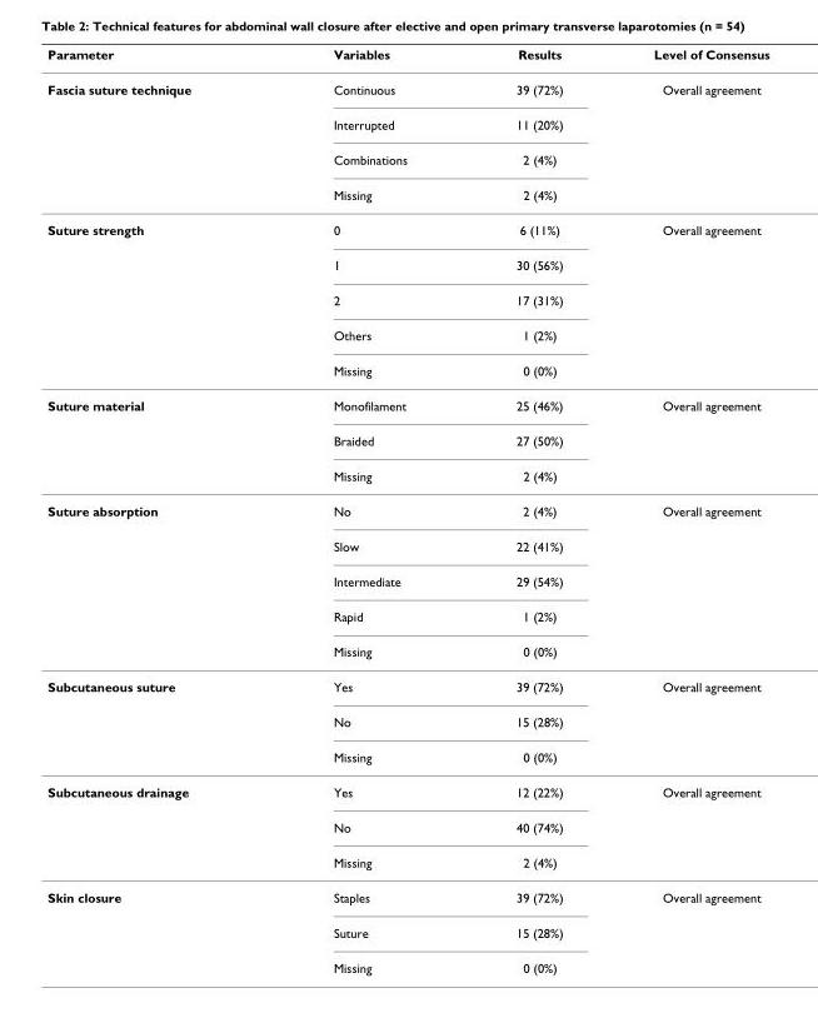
<table><thead><tr><td>Parameter</td><td>Variables</td><td>Results</td><td>Level of Consensus</td></tr></thead><tbody><tr><td rowspan="4">Fascia suture technique</td><td>Continuous</td><td>39 (72%)</td><td>Overall agreement</td></tr><tr><td>Interrupted</td><td>11 (20%)</td><td></td></tr><tr><td>Combinations</td><td>2 (4%)</td><td></td></tr><tr><td>Missing</td><td>2 (4%)</td><td></td></tr><tr><td rowspan="5">Suture strength</td><td>0</td><td>6 (11%)</td><td>Overall agreement</td></tr><tr><td>1</td><td>30 (56%)</td><td></td></tr><tr><td>2</td><td>17 (31%)</td><td></td></tr><tr><td>Others</td><td>1 (2%)</td><td></td></tr><tr><td>Missing</td><td>0 (0%)</td><td></td></tr><tr><td rowspan="3">Suture material</td><td>Monofilament</td><td>25 (46%)</td><td>Overall agreement</td></tr><tr><td>Braided</td><td>27 (50%)</td><td></td></tr><tr><td>Missing</td><td>2 (4%)</td><td></td></tr><tr><td rowspan="5">Suture absorption</td><td>No</td><td>2 (4%)</td><td>Overall agreement</td></tr><tr><td>Slow</td><td>22 (41%)</td><td></td></tr><tr><td>Intermediate</td><td>29 (54%)</td><td></td></tr><tr><td>Rapid</td><td>1 (2%)</td><td></td></tr><tr><td>Missing</td><td>0 (0%)</td><td></td></tr><tr><td rowspan="3">Subcutaneous suture</td><td>Yes</td><td>39 (72%)</td><td>Overall agreement</td></tr><tr><td>No</td><td>15 (28%)</td><td></td></tr><tr><td>Missing</td><td>0 (0%)</td><td></td></tr><tr><td rowspan="3">Subcutaneous drainage</td><td>Yes</td><td>12 (22%)</td><td>Overall agreement</td></tr><tr><td>No</td><td>40 (74%)</td><td></td></tr><tr><td>Missing</td><td>2 (4%)</td><td></td></tr><tr><td rowspan="3">Skin closure</td><td>Staples</td><td>39 (72%)</td><td>Overall agreement</td></tr><tr><td>Suture</td><td>15 (28%)</td><td></td></tr><tr><td>Missing</td><td>0 (0%)</td><td></td></tr></tbody></table>